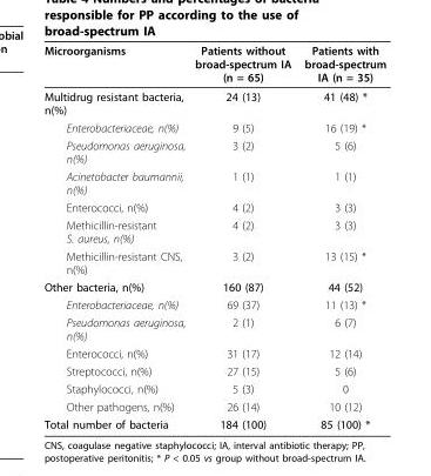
<table><thead><tr><td>Microorganisms</td><td>Patients without broad-spectrum IA (n = 65)</td><td>Patients with broad-spectrum IA (n = 35)</td></tr></thead><tbody><tr><td>Multidrug resistant bacteria, n(%)</td><td>24 (13)</td><td>41 (48) *</td></tr><tr><td>Enterobacteriaceae, n(%)</td><td>9 (5)</td><td>16 (19) *</td></tr><tr><td>Pseudomonas aeruginosa, n(%)</td><td>3 (2)</td><td>5 (6)</td></tr><tr><td>Acinetobacter baumannii, n(%)</td><td>1 (1)</td><td>1 (1)</td></tr><tr><td>Enterococci, n(%)</td><td>4 (2)</td><td>3 (3)</td></tr><tr><td>Methicillin-resistant S. aureus, n(%)</td><td>4 (2)</td><td>3 (3)</td></tr><tr><td>Methicillin-resistant CNS, n(%)</td><td>3 (2)</td><td>13 (15) *</td></tr><tr><td>Other bacteria, n(%)</td><td>160 (87)</td><td>44 (52)</td></tr><tr><td>Enterobacteriaceae, n(%)</td><td>69 (37)</td><td>11 (13) *</td></tr><tr><td>Pseudomonas aeruginosa, n(%)</td><td>2 (1)</td><td>6 (7)</td></tr><tr><td>Enterococci, n(%)</td><td>31 (17)</td><td>12 (14)</td></tr><tr><td>Streptococci, n(%)</td><td>27 (15)</td><td>5 (6)</td></tr><tr><td>Staphylococci, n(%)</td><td>5 (3)</td><td>0</td></tr><tr><td>Other pathogens, n(%)</td><td>26 (14)</td><td>10 (12)</td></tr><tr><td>Total number of bacteria</td><td>184 (100)</td><td>85 (100) *</td></tr></tbody></table>